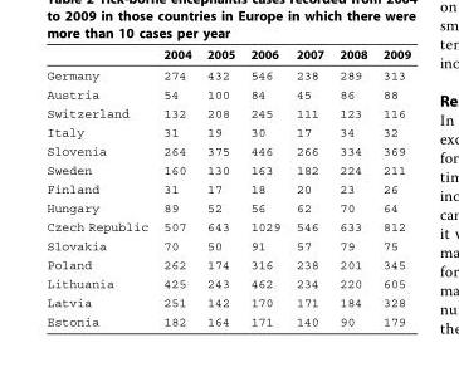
<table><thead><tr><td></td><td>2004</td><td>2005</td><td>2006</td><td>2007</td><td>2008</td><td>2009</td></tr></thead><tbody><tr><td>Germany</td><td>274</td><td>432</td><td>546</td><td>238</td><td>289</td><td>313</td></tr><tr><td>Austria</td><td>54</td><td>100</td><td>84</td><td>45</td><td>86</td><td>88</td></tr><tr><td>Switzerland</td><td>132</td><td>208</td><td>245</td><td>111</td><td>123</td><td>116</td></tr><tr><td>Italy</td><td>31</td><td>19</td><td>30</td><td>17</td><td>34</td><td>32</td></tr><tr><td>Slovenia</td><td>264</td><td>375</td><td>446</td><td>266</td><td>334</td><td>369</td></tr><tr><td>Sweden</td><td>160</td><td>130</td><td>163</td><td>182</td><td>224</td><td>211</td></tr><tr><td>Finland</td><td>31</td><td>17</td><td>18</td><td>20</td><td>23</td><td>26</td></tr><tr><td>Hungary</td><td>89</td><td>52</td><td>56</td><td>62</td><td>70</td><td>64</td></tr><tr><td>Czech Republic</td><td>507</td><td>643</td><td>1029</td><td>546</td><td>633</td><td>812</td></tr><tr><td>Slovakia</td><td>70</td><td>50</td><td>91</td><td>57</td><td>79</td><td>75</td></tr><tr><td>Poland</td><td>262</td><td>174</td><td>316</td><td>238</td><td>201</td><td>345</td></tr><tr><td>Lithuania</td><td>425</td><td>243</td><td>462</td><td>234</td><td>220</td><td>605</td></tr><tr><td>Latvia</td><td>251</td><td>142</td><td>170</td><td>171</td><td>184</td><td>328</td></tr><tr><td>Estonia</td><td>182</td><td>164</td><td>171</td><td>140</td><td>90</td><td>179</td></tr></tbody></table>